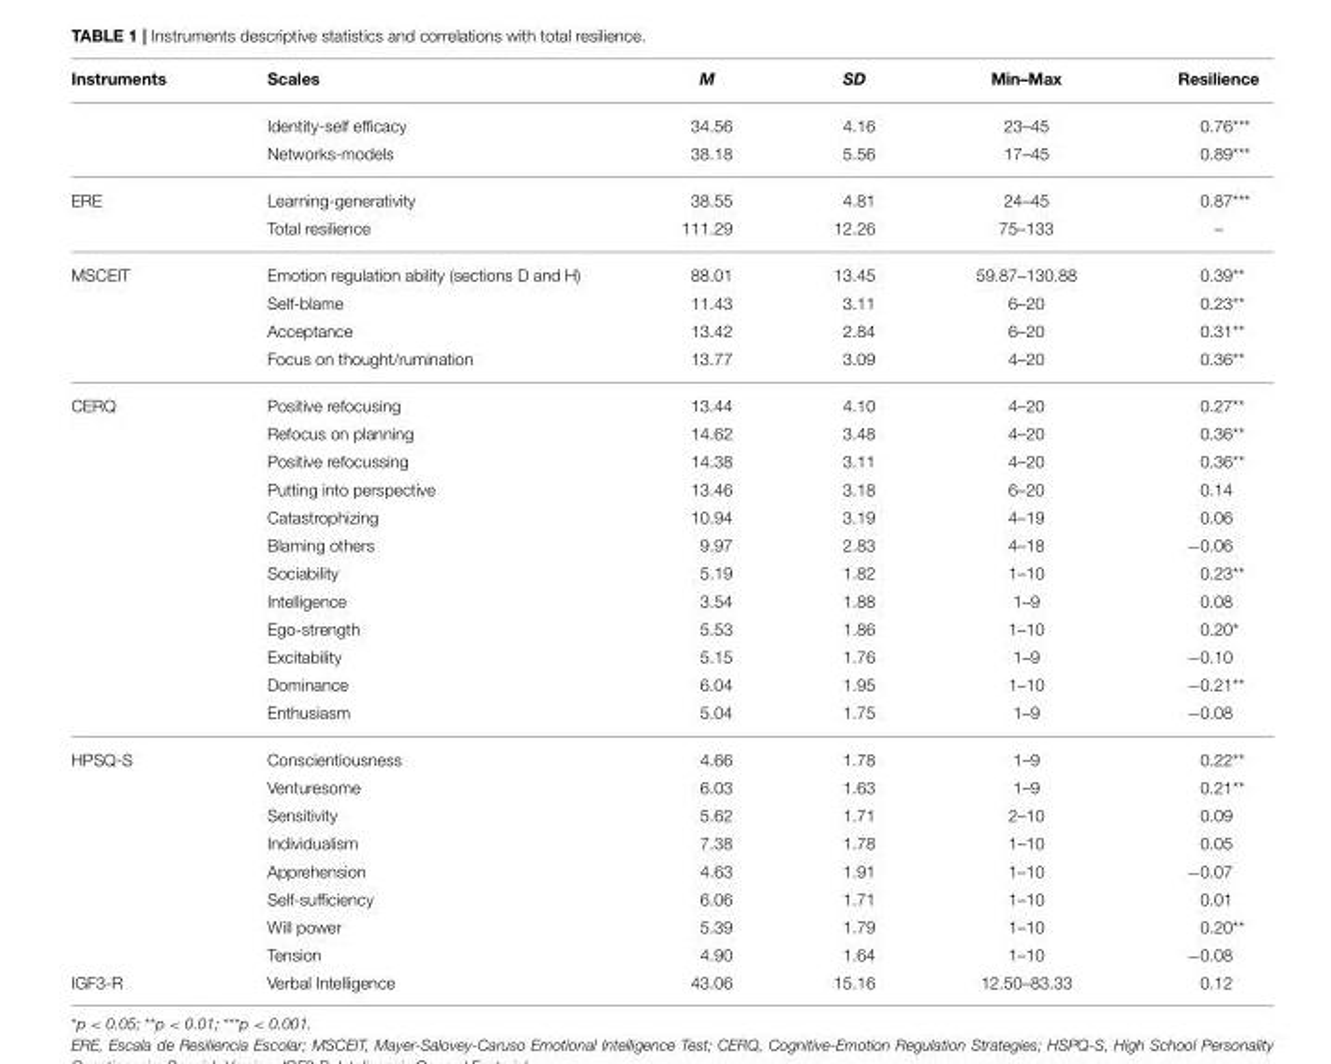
<table><thead><tr><td>Instruments</td><td>Scales</td><td>M</td><td>SD</td><td>Min–Max</td><td>Resilience</td></tr></thead><tbody><tr><td></td><td>Identity-self efficacy</td><td>34.56</td><td>4.16</td><td>23–45</td><td>0.76***</td></tr><tr><td></td><td>Networks-models</td><td>38.18</td><td>5.56</td><td>17–45</td><td>0.89***</td></tr><tr><td rowspan="2">ERE</td><td>Learning-generativity</td><td>38.55</td><td>4.81</td><td>24–45</td><td>0.87***</td></tr><tr><td>Total resilience</td><td>111.29</td><td>12.26</td><td>75–133</td><td>–</td></tr><tr><td rowspan="4">MSCEIT</td><td>Emotion regulation ability (sections D and H)</td><td>88.01</td><td>13.45</td><td>59.87–130.88</td><td>0.39**</td></tr><tr><td>Self-blame</td><td>11.43</td><td>3.11</td><td>6–20</td><td>0.23**</td></tr><tr><td>Acceptance</td><td>13.42</td><td>2.84</td><td>6–20</td><td>0.31**</td></tr><tr><td>Focus on thought/rumination</td><td>13.77</td><td>3.09</td><td>4–20</td><td>0.36**</td></tr><tr><td rowspan="12">CERQ</td><td>Positive refocusing</td><td>13.44</td><td>4.10</td><td>4–20</td><td>0.27**</td></tr><tr><td>Refocus on planning</td><td>14.62</td><td>3.48</td><td>4–20</td><td>0.36**</td></tr><tr><td>Positive refocussing</td><td>14.38</td><td>3.11</td><td>4–20</td><td>0.36**</td></tr><tr><td>Putting into perspective</td><td>13.46</td><td>3.18</td><td>6–20</td><td>0.14</td></tr><tr><td>Catastrophizing</td><td>10.94</td><td>3.19</td><td>4–19</td><td>0.06</td></tr><tr><td>Blaming others</td><td>9.97</td><td>2.83</td><td>4–18</td><td>−0.06</td></tr><tr><td>Sociability</td><td>5.19</td><td>1.82</td><td>1–10</td><td>0.23**</td></tr><tr><td>Intelligence</td><td>3.54</td><td>1.88</td><td>1–9</td><td>0.08</td></tr><tr><td>Ego-strength</td><td>5.53</td><td>1.86</td><td>1–10</td><td>0.20*</td></tr><tr><td>Excitability</td><td>5.15</td><td>1.76</td><td>1–9</td><td>−0.10</td></tr><tr><td>Dominance</td><td>6.04</td><td>1.95</td><td>1–10</td><td>−0.21**</td></tr><tr><td>Enthusiasm</td><td>5.04</td><td>1.75</td><td>1–9</td><td>−0.08</td></tr><tr><td rowspan="8">HPSQ-S</td><td>Conscientiousness</td><td>4.66</td><td>1.78</td><td>1–9</td><td>0.22**</td></tr><tr><td>Venturesome</td><td>6.03</td><td>1.63</td><td>1–9</td><td>0.21**</td></tr><tr><td>Sensitivity</td><td>5.62</td><td>1.71</td><td>2–10</td><td>0.09</td></tr><tr><td>Individualism</td><td>7.38</td><td>1.78</td><td>1–10</td><td>0.05</td></tr><tr><td>Apprehension</td><td>4.63</td><td>1.91</td><td>1–10</td><td>−0.07</td></tr><tr><td>Self-sufficiency</td><td>6.06</td><td>1.71</td><td>1–10</td><td>0.01</td></tr><tr><td>Will power</td><td>5.39</td><td>1.79</td><td>1–10</td><td>0.20**</td></tr><tr><td>Tension</td><td>4.90</td><td>1.64</td><td>1–10</td><td>−0.08</td></tr><tr><td>IGF3-R</td><td>Verbal Intelligence</td><td>43.06</td><td>15.16</td><td>12.50–83.33</td><td>0.12</td></tr></tbody></table>